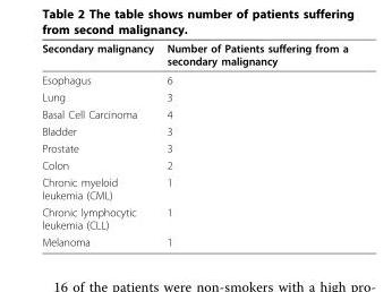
<table><thead><tr><td>Secondary malignancy</td><td>Number of Patients suffering from a secondary malignancy</td></tr></thead><tbody><tr><td>Esophagus</td><td>6</td></tr><tr><td>Lung</td><td>3</td></tr><tr><td>Basal Cell Carcinoma</td><td>4</td></tr><tr><td>Bladder</td><td>3</td></tr><tr><td>Prostate</td><td>3</td></tr><tr><td>Colon</td><td>2</td></tr><tr><td>Chronic myeloid leukemia (CML)</td><td>1</td></tr><tr><td>Chronic lymphocytic leukemia (CLL)</td><td>1</td></tr><tr><td>Melanoma</td><td>1</td></tr></tbody></table>